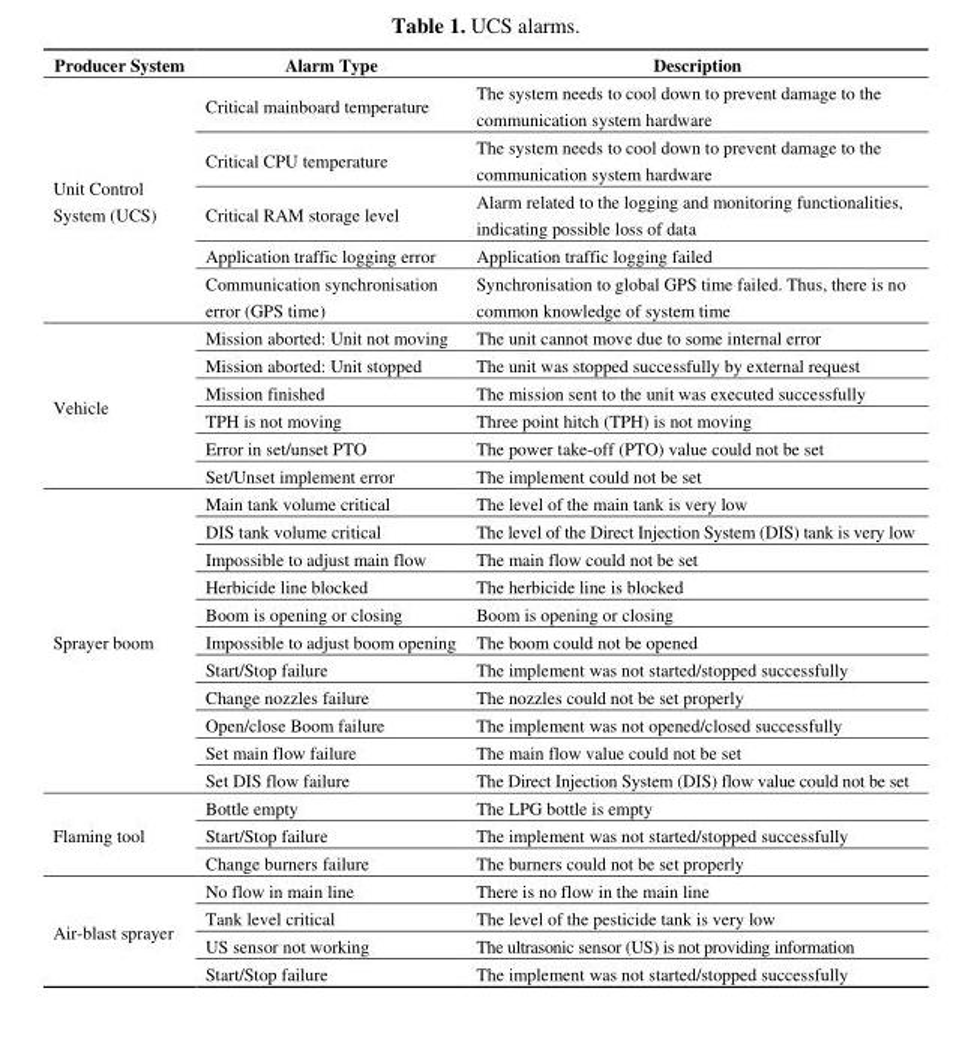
<table><thead><tr><td>Producer System</td><td>Alarm Type</td><td>Description</td></tr></thead><tbody><tr><td rowspan="5">Unit Control System (UCS)</td><td>Critical mainboard temperature</td><td>The system needs to cool down to prevent damage to the communication system hardware</td></tr><tr><td>Critical CPU temperature</td><td>The system needs to cool down to prevent damage to the communication system hardware</td></tr><tr><td>Critical RAM storage level</td><td>Alarm related to the logging and monitoring functionalities, indicating possible loss of data</td></tr><tr><td>Application traffic logging error</td><td>Application traffic logging failed</td></tr><tr><td>Communication synchronisation error (GPS time)</td><td>Synchronisation to global GPS time failed. Thus, there is no common knowledge of system time</td></tr><tr><td rowspan="6">Vehicle</td><td>Mission aborted: Unit not moving</td><td>The unit cannot move due to some internal error</td></tr><tr><td>Mission aborted: Unit stopped</td><td>The unit was stopped successfully by external request</td></tr><tr><td>Mission finished</td><td>The mission sent to the unit was executed successfully</td></tr><tr><td>TPH is not moving</td><td>Three point hitch (TPH) is not moving</td></tr><tr><td>Error in set/unset PTO</td><td>The power take-off (PTO) value could not be set</td></tr><tr><td>Set/Unset implement error</td><td>The implement could not be set</td></tr><tr><td rowspan="11">Sprayer boom</td><td>Main tank volume critical</td><td>The level of the main tank is very low</td></tr><tr><td>DIS tank volume critical</td><td>The level of the Direct Injection System (DIS) tank is very low</td></tr><tr><td>Impossible to adjust main flow</td><td>The main flow could not be set</td></tr><tr><td>Herbicide line blocked</td><td>The herbicide line is blocked</td></tr><tr><td>Boom is opening or closing</td><td>Boom is opening or closing</td></tr><tr><td>Impossible to adjust boom opening</td><td>The boom could not be opened</td></tr><tr><td>Start/Stop failure</td><td>The implement was not started/stopped successfully</td></tr><tr><td>Change nozzles failure</td><td>The nozzles could not be set properly</td></tr><tr><td>Open/close Boom failure</td><td>The implement was not opened/closed successfully</td></tr><tr><td>Set main flow failure</td><td>The main flow value could not be set</td></tr><tr><td>Set DIS flow failure</td><td>The Direct Injection System (DIS) flow value could not be set</td></tr><tr><td rowspan="3">Flaming tool</td><td>Bottle empty</td><td>The LPG bottle is empty</td></tr><tr><td>Start/Stop failure</td><td>The implement was not started/stopped successfully</td></tr><tr><td>Change burners failure</td><td>The burners could not be set properly</td></tr><tr><td rowspan="4">Air-blast sprayer</td><td>No flow in main line</td><td>There is no flow in the main line</td></tr><tr><td>Tank level critical</td><td>The level of the pesticide tank is very low</td></tr><tr><td>US sensor not working</td><td>The ultrasonic sensor (US) is not providing information</td></tr><tr><td>Start/Stop failure</td><td>The implement was not started/stopped successfully</td></tr></tbody></table>